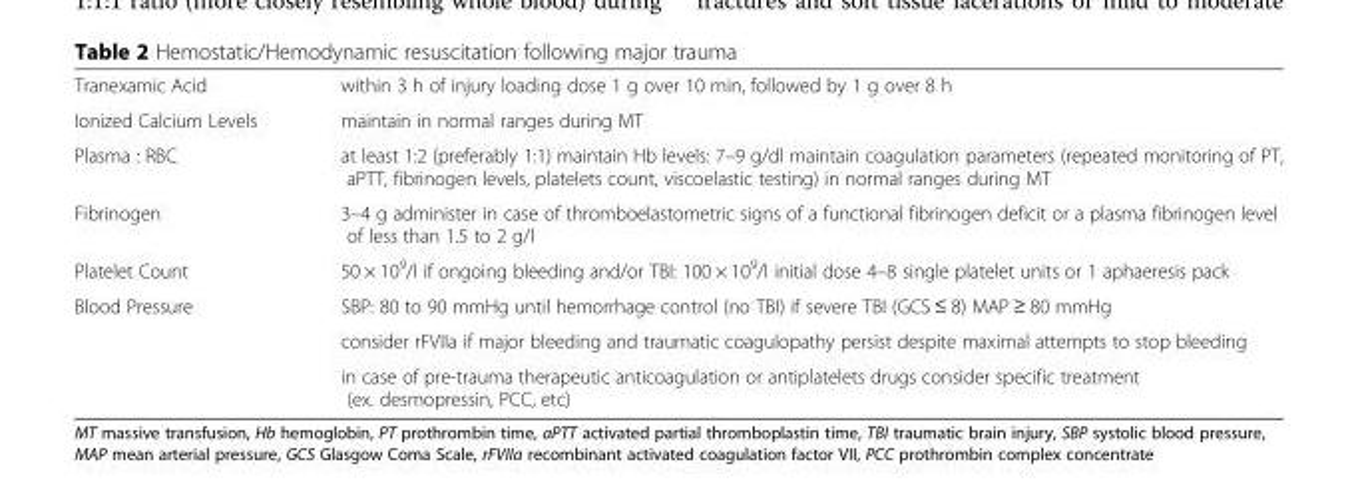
<table><tbody><tr><td>Tranexamic Acid</td><td>within 3 h of injury loading dose 1 g over 10 min, followed by 1 g over 8 h</td></tr><tr><td>Ionized Calcium Levels</td><td>maintain in normal ranges during MT</td></tr><tr><td>Plasma : RBC</td><td>at least 1:2 (preferably 1:1) maintain Hb levels: 7–9 g/dl maintain coagulation parameters (repeated monitoring of PT, aPTT, fibrinogen levels, platelets count, viscoelastic testing) in normal ranges during MT</td></tr><tr><td>Fibrinogen</td><td>3–4 g administer in case of thromboelastometric signs of a functional fibrinogen deficit or a plasma fibrinogen level of less than 1.5 to 2 g/l</td></tr><tr><td>Platelet Count</td><td>50 × 10<sup>9</sup>/l if ongoing bleeding and/or TBI: 100 × 10<sup>9</sup>/l initial dose 4–8 single platelet units or 1 aphaeresis pack</td></tr><tr><td rowspan="3">Blood Pressure</td><td>SBP: 80 to 90 mmHg until hemorrhage control (no TBI) if severe TBI (GCS ≤ 8) MAP ≥ 80 mmHg</td></tr><tr><td>consider rFVIIa if major bleeding and traumatic coagulopathy persist despite maximal attempts to stop bleeding</td></tr><tr><td>in case of pre-trauma therapeutic anticoagulation or antiplatelets drugs consider specific treatment (ex. desmopressin, PCC, etc)</td></tr></tbody></table>